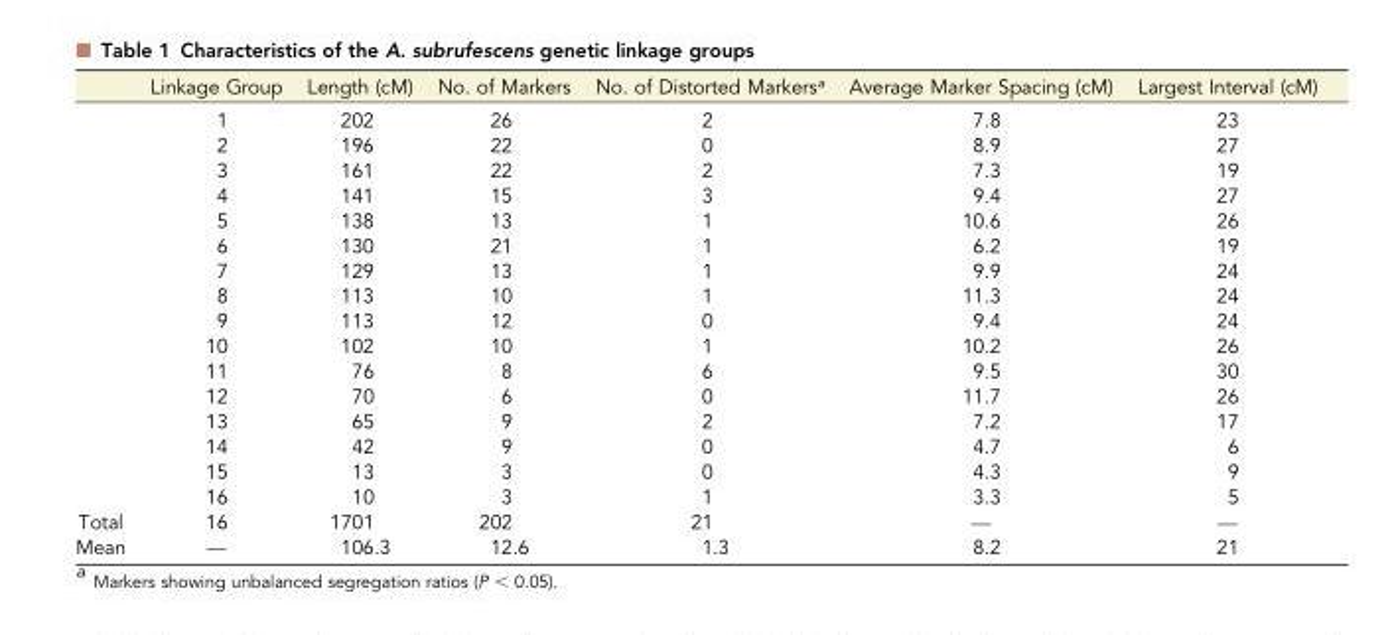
<table><thead><tr><td></td><td>Linkage Group</td><td>Length (cM)</td><td>No. of Markers</td><td>No. of Distorted Markers<sup>a</sup></td><td>Average Marker Spacing (cM)</td><td>Largest Interval (cM)</td></tr></thead><tbody><tr><td></td><td>1</td><td>202</td><td>26</td><td>2</td><td>7.8</td><td>23</td></tr><tr><td></td><td>2</td><td>196</td><td>22</td><td>0</td><td>8.9</td><td>27</td></tr><tr><td></td><td>3</td><td>161</td><td>22</td><td>2</td><td>7.3</td><td>19</td></tr><tr><td></td><td>4</td><td>141</td><td>15</td><td>3</td><td>9.4</td><td>27</td></tr><tr><td></td><td>5</td><td>138</td><td>13</td><td>1</td><td>10.6</td><td>26</td></tr><tr><td></td><td>6</td><td>130</td><td>21</td><td>1</td><td>6.2</td><td>19</td></tr><tr><td></td><td>7</td><td>129</td><td>13</td><td>1</td><td>9.9</td><td>24</td></tr><tr><td></td><td>8</td><td>113</td><td>10</td><td>1</td><td>11.3</td><td>24</td></tr><tr><td></td><td>9</td><td>113</td><td>12</td><td>0</td><td>9.4</td><td>24</td></tr><tr><td></td><td>10</td><td>102</td><td>10</td><td>1</td><td>10.2</td><td>26</td></tr><tr><td></td><td>11</td><td>76</td><td>8</td><td>6</td><td>9.5</td><td>30</td></tr><tr><td></td><td>12</td><td>70</td><td>6</td><td>0</td><td>11.7</td><td>26</td></tr><tr><td></td><td>13</td><td>65</td><td>9</td><td>2</td><td>7.2</td><td>17</td></tr><tr><td></td><td>14</td><td>42</td><td>9</td><td>0</td><td>4.7</td><td>6</td></tr><tr><td></td><td>15</td><td>13</td><td>3</td><td>0</td><td>4.3</td><td>9</td></tr><tr><td></td><td>16</td><td>10</td><td>3</td><td>1</td><td>3.3</td><td>5</td></tr><tr><td>Total</td><td>16</td><td>1701</td><td>202</td><td>21</td><td>—</td><td>—</td></tr><tr><td>Mean</td><td>—</td><td>106.3</td><td>12.6</td><td>1.3</td><td>8.2</td><td>21</td></tr></tbody></table>